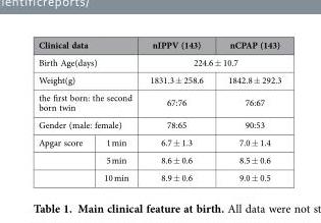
<table><thead><tr><td colspan="2">Clinical data</td><td>nIPPV (143)</td><td>nCPAP (143)</td></tr></thead><tbody><tr><td colspan="2">Birth Age(days)</td><td colspan="2">224.6 ± 10.7</td></tr><tr><td colspan="2">Weight(g)</td><td>1831.3 ± 258.6</td><td>1842.8 ± 292.3</td></tr><tr><td colspan="2">the first born: the second born twin</td><td>67:76</td><td>76:67</td></tr><tr><td colspan="2">Gender (male: female)</td><td>78:65</td><td>90:53</td></tr><tr><td rowspan="3">Apgar score</td><td>1 min</td><td>6.7 ± 1.3</td><td>7.0 ± 1.4</td></tr><tr><td>5 min</td><td>8.6 ± 0.6</td><td>8.5 ± 0.6</td></tr><tr><td>10 min</td><td>8.9 ± 0.6</td><td>9.0 ± 0.5</td></tr></tbody></table>